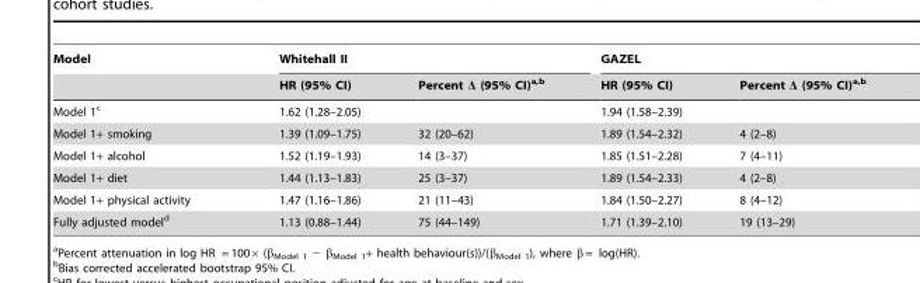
<table><thead><tr><td rowspan="2">Model</td><td colspan="2">Whitehall II</td><td colspan="2">GAZEL</td></tr><tr><td>HR (95% CI)</td><td>Percent Δ (95% CI)a,b</td><td>HR (95% CI)</td><td>Percent Δ (95% CI)a,b</td></tr></thead><tbody><tr><td>Model 1<sup>c</sup></td><td>1.62 (1.28–2.05)</td><td></td><td>1.94 (1.58–2.39)</td><td></td></tr><tr><td>Model 1+ smoking</td><td>1.39 (1.09–1.75)</td><td>32 (20–62)</td><td>1.89 (1.54–2.32)</td><td>4 (2–8)</td></tr><tr><td>Model 1+ alcohol</td><td>1.52 (1.19–1.93)</td><td>14 (3–37)</td><td>1.85 (1.51–2.28)</td><td>7 (4–11)</td></tr><tr><td>Model 1+ diet</td><td>1.44 (1.13–1.83)</td><td>25 (3–37)</td><td>1.89 (1.54–2.33)</td><td>4 (2–8)</td></tr><tr><td>Model 1+ physical activity</td><td>1.47 (1.16–1.86)</td><td>21 (11–43)</td><td>1.84 (1.50–2.27)</td><td>8 (4–12)</td></tr><tr><td>Fully adjusted model<sup>d</sup></td><td>1.13 (0.88–1.44)</td><td>75 (44–149)</td><td>1.71 (1.39–2.10)</td><td>19 (13–29)</td></tr></tbody></table>